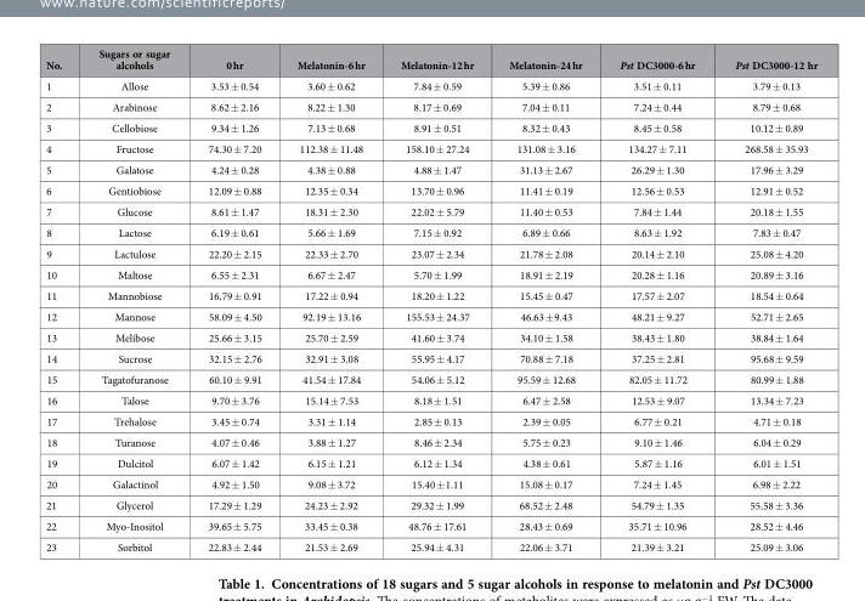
<table><thead><tr><td>No.</td><td>Sugars or sugar alcohols</td><td>0 hr</td><td>Melatonin-6 hr</td><td>Melatonin-12 hr</td><td>Melatonin-24 hr</td><td>Pst DC3000-6 hr</td><td>Pst DC3000-12 hr</td></tr></thead><tbody><tr><td>1</td><td>Allose</td><td>3.53 ± 0.54</td><td>3.60 ± 0.62</td><td>7.84 ± 0.59</td><td>5.39 ± 0.86</td><td>3.51 ± 0.11</td><td>3.79 ± 0.13</td></tr><tr><td>2</td><td>Arabinose</td><td>8.62 ± 2.16</td><td>8.22 ± 1.30</td><td>8.17 ± 0.69</td><td>7.04 ± 0.11</td><td>7.24 ± 0.44</td><td>8.79 ± 0.68</td></tr><tr><td>3</td><td>Cellobiose</td><td>9.34 ± 1.26</td><td>7.13 ± 0.68</td><td>8.91 ± 0.51</td><td>8.32 ± 0.43</td><td>8.45 ± 0.58</td><td>10.12 ± 0.89</td></tr><tr><td>4</td><td>Fructose</td><td>74.30 ± 7.20</td><td>112.38 ± 11.48</td><td>158.10 ± 27.24</td><td>131.08 ± 3.16</td><td>134.27 ± 7.11</td><td>268.58 ± 35.93</td></tr><tr><td>5</td><td>Galatose</td><td>4.24 ± 0.28</td><td>4.38 ± 0.88</td><td>4.88 ± 1.47</td><td>31.13 ± 2.67</td><td>26.29 ± 1.30</td><td>17.96 ± 3.29</td></tr><tr><td>6</td><td>Gentiobiose</td><td>12.09 ± 0.88</td><td>12.35 ± 0.34</td><td>13.70 ± 0.96</td><td>11.41 ± 0.19</td><td>12.56 ± 0.53</td><td>12.91 ± 0.52</td></tr><tr><td>7</td><td>Glucose</td><td>8.61 ± 1.47</td><td>18.31 ± 2.30</td><td>22.02 ± 5.79</td><td>11.40 ± 0.53</td><td>7.84 ± 1.44</td><td>20.18 ± 1.55</td></tr><tr><td>8</td><td>Lactose</td><td>6.19 ± 0.61</td><td>5.66 ± 1.69</td><td>7.15 ± 0.92</td><td>6.89 ± 0.66</td><td>8.63 ± 1.92</td><td>7.83 ± 0.47</td></tr><tr><td>9</td><td>Lactulose</td><td>22.20 ± 2.15</td><td>22.33 ± 2.70</td><td>23.07 ± 2.34</td><td>21.78 ± 2.08</td><td>20.14 ± 2.10</td><td>25.08 ± 4.20</td></tr><tr><td>10</td><td>Maltose</td><td>6.55 ± 2.31</td><td>6.67 ± 2.47</td><td>5.70 ± 1.99</td><td>18.91 ± 2.19</td><td>20.28 ± 1.16</td><td>20.89 ± 3.16</td></tr><tr><td>11</td><td>Mannobiose</td><td>16.79 ± 0.91</td><td>17.22 ± 0.94</td><td>18.20 ± 1.22</td><td>15.45 ± 0.47</td><td>17.57 ± 2.07</td><td>18.54 ± 0.64</td></tr><tr><td>12</td><td>Mannose</td><td>58.09 ± 4.50</td><td>92.19 ± 13.16</td><td>155.53 ± 24.37</td><td>46.63 ± 9.43</td><td>48.21 ± 9.27</td><td>52.71 ± 2.65</td></tr><tr><td>13</td><td>Melibose</td><td>25.66 ± 3.15</td><td>25.70 ± 2.59</td><td>41.60 ± 3.74</td><td>34.10 ± 1.58</td><td>38.43 ± 1.80</td><td>38.84 ± 1.64</td></tr><tr><td>14</td><td>Sucrose</td><td>32.15 ± 2.76</td><td>32.91 ± 3.08</td><td>55.95 ± 4.17</td><td>70.88 ± 7.18</td><td>37.25 ± 2.81</td><td>95.68 ± 9.59</td></tr><tr><td>15</td><td>Tagatofuranose</td><td>60.10 ± 9.91</td><td>41.54 ± 17.84</td><td>54.06 ± 5.12</td><td>95.59 ± 12.68</td><td>82.05 ± 11.72</td><td>80.99 ± 1.88</td></tr><tr><td>16</td><td>Talose</td><td>9.70 ± 3.76</td><td>15.14 ± 7.53</td><td>8.18 ± 1.51</td><td>6.47 ± 2.58</td><td>12.53 ± 9.07</td><td>13.34 ± 7.23</td></tr><tr><td>17</td><td>Trehalose</td><td>3.45 ± 0.74</td><td>3.31 ± 1.14</td><td>2.85 ± 0.13</td><td>2.39 ± 0.05</td><td>6.77 ± 0.21</td><td>4.71 ± 0.18</td></tr><tr><td>18</td><td>Turanose</td><td>4.07 ± 0.46</td><td>3.88 ± 1.27</td><td>8.46 ± 2.34</td><td>5.75 ± 0.23</td><td>9.10 ± 1.46</td><td>6.04 ± 0.29</td></tr><tr><td>19</td><td>Dulcitol</td><td>6.07 ± 1.42</td><td>6.15 ± 1.21</td><td>6.12 ± 1.34</td><td>4.38 ± 0.61</td><td>5.87 ± 1.16</td><td>6.01 ± 1.51</td></tr><tr><td>20</td><td>Galactinol</td><td>4.92 ± 1.50</td><td>9.08 ± 3.72</td><td>15.40 ± 1.11</td><td>15.08 ± 0.17</td><td>7.24 ± 1.45</td><td>6.98 ± 2.22</td></tr><tr><td>21</td><td>Glycerol</td><td>17.29 ± 1.29</td><td>24.23 ± 2.92</td><td>29.32 ± 1.99</td><td>68.52 ± 2.48</td><td>54.79 ± 1.35</td><td>55.58 ± 3.36</td></tr><tr><td>22</td><td>Myo-Inositol</td><td>39.65 ± 5.75</td><td>33.45 ± 0.38</td><td>48.76 ± 17.61</td><td>28.43 ± 0.69</td><td>35.71 ± 10.96</td><td>28.52 ± 4.46</td></tr><tr><td>23</td><td>Sorbitol</td><td>22.83 ± 2.44</td><td>21.53 ± 2.69</td><td>25.94 ± 4.31</td><td>22.06 ± 3.71</td><td>21.39 ± 3.21</td><td>25.09 ± 3.06</td></tr></tbody></table>